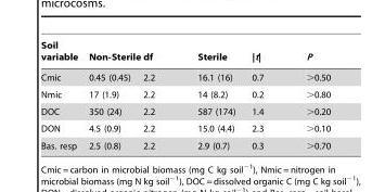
<table><thead><tr><td>Soil variable</td><td>Non-Sterile</td><td>df</td><td>Sterile</td><td>|t|</td><td>P</td></tr></thead><tbody><tr><td>Cmic</td><td>0.45 (0.45)</td><td>2.2</td><td>16.1 (16)</td><td>0.7</td><td>&gt;0.50</td></tr><tr><td>Nmic</td><td>17 (1.9)</td><td>2.2</td><td>14 (8.2)</td><td>0.2</td><td>&gt;0.80</td></tr><tr><td>DOC</td><td>350 (24)</td><td>2.2</td><td>587 (174)</td><td>1.4</td><td>&gt;0.20</td></tr><tr><td>DON</td><td>4.5 (0.9)</td><td>2.2</td><td>15.0 (4.4)</td><td>2.3</td><td>&gt;0.10</td></tr><tr><td>Bas. resp</td><td>2.5 (0.8)</td><td>2.2</td><td>2.9 (0.7)</td><td>0.3</td><td>&gt;0.70</td></tr></tbody></table>